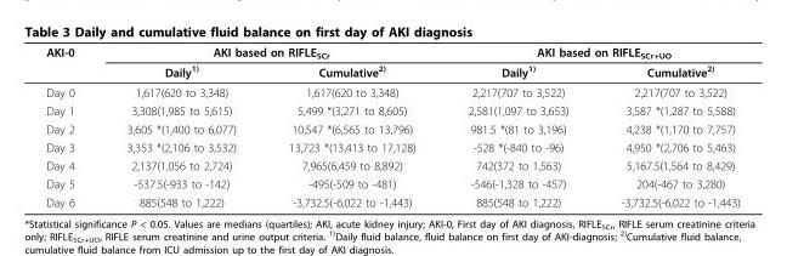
<table><thead><tr><td rowspan="2">AKI-0</td><td colspan="2">AKI based on RIFLE<sub>SCr</sub></td><td colspan="2">AKI based on RIFLE<sub>SCr+UO</sub></td></tr><tr><td>Daily<sup>1)</sup></td><td>Cumulative<sup>2)</sup></td><td>Daily<sup>1)</sup></td><td>Cumulative<sup>2)</sup></td></tr></thead><tbody><tr><td>Day 0</td><td>1,617(620 to 3,348)</td><td>1,617(620 to 3,348)</td><td>2,217(707 to 3,522)</td><td>2,217(707 to 3,522)</td></tr><tr><td>Day 1</td><td>3,308(1,985 to 5,615)</td><td>5,499 *(3,271 to 8,605)</td><td>2,581(1,097 to 3,653)</td><td>3,587 *(1,287 to 5,588)</td></tr><tr><td>Day 2</td><td>3,605 *(1,400 to 6,077)</td><td>10,547 *(6,565 to 13,796)</td><td>981.5 *(81 to 3,196)</td><td>4,238 *(1,170 to 7,757)</td></tr><tr><td>Day 3</td><td>3,353 *(2,106 to 3,532)</td><td>13,723 *(13,413 to 17,128)</td><td>-528 *(-840 to -96)</td><td>4,950 *(2,706 to 5,463)</td></tr><tr><td>Day 4</td><td>2,137(1,056 to 2,724)</td><td>7,965(6,459 to 8,892)</td><td>742(372 to 1,563)</td><td>5,167.5(1,564 to 8,429)</td></tr><tr><td>Day 5</td><td>-537.5(-933 to -142)</td><td>-495(-509 to -481)</td><td>-546(-1,328 to -457)</td><td>204(-467 to 3,280)</td></tr><tr><td>Day 6</td><td>885(548 to 1,222)</td><td>-3,732.5(-6,022 to -1,443)</td><td>885(548 to 1,222)</td><td>-3,732.5(-6,022 to -1,443)</td></tr></tbody></table>